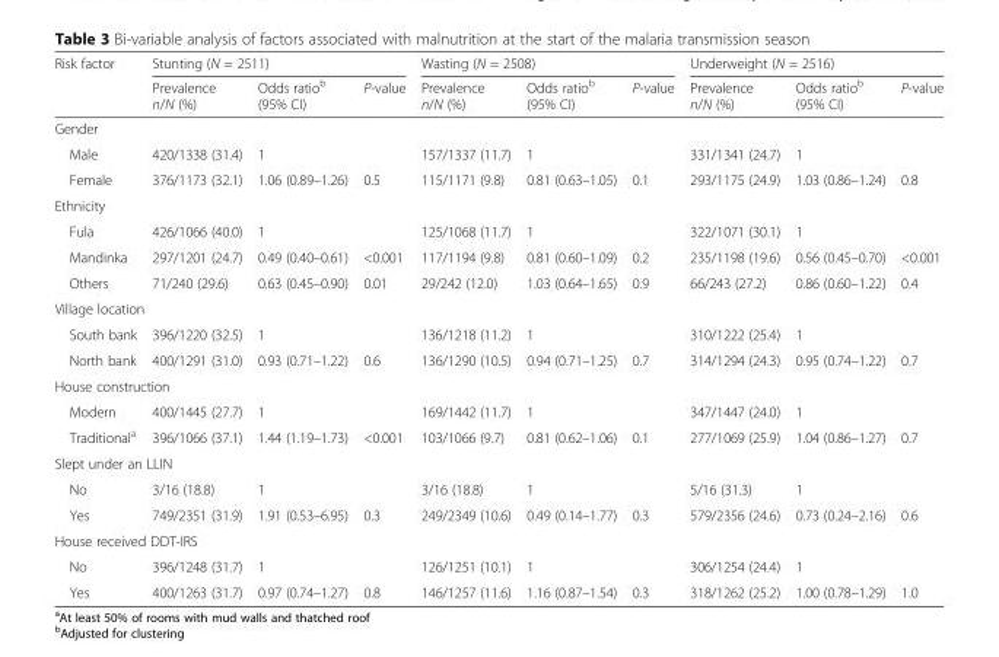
<table><thead><tr><td rowspan="2">Risk factor</td><td colspan="3">Stunting (N = 2511)</td><td colspan="3">Wasting (N = 2508)</td><td colspan="3">Underweight (N = 2516)</td></tr><tr><td>Prevalence n/N (%)</td><td>Odds ratio<sup>b</sup> (95% CI)</td><td>P-value</td><td>Prevalence n/N (%)</td><td>Odds ratio<sup>b</sup> (95% CI)</td><td>P-value</td><td>Prevalence n/N (%)</td><td>Odds ratio<sup>b</sup> (95% CI)</td><td>P-value</td></tr></thead><tbody><tr><td colspan="10">Gender</td></tr><tr><td>Male</td><td>420/1338 (31.4)</td><td>1</td><td></td><td>157/1337 (11.7)</td><td>1</td><td></td><td>331/1341 (24.7)</td><td>1</td><td></td></tr><tr><td>Female</td><td>376/1173 (32.1)</td><td>1.06 (0.89–1.26)</td><td>0.5</td><td>115/1171 (9.8)</td><td>0.81 (0.63–1.05)</td><td>0.1</td><td>293/1175 (24.9)</td><td>1.03 (0.86–1.24)</td><td>0.8</td></tr><tr><td colspan="10">Ethnicity</td></tr><tr><td>Fula</td><td>426/1066 (40.0)</td><td>1</td><td></td><td>125/1068 (11.7)</td><td>1</td><td></td><td>322/1071 (30.1)</td><td>1</td><td></td></tr><tr><td>Mandinka</td><td>297/1201 (24.7)</td><td>0.49 (0.40–0.61)</td><td>&lt;0.001</td><td>117/1194 (9.8)</td><td>0.81 (0.60–1.09)</td><td>0.2</td><td>235/1198 (19.6)</td><td>0.56 (0.45–0.70)</td><td>&lt;0.001</td></tr><tr><td>Others</td><td>71/240 (29.6)</td><td>0.63 (0.45–0.90)</td><td>0.01</td><td>29/242 (12.0)</td><td>1.03 (0.64–1.65)</td><td>0.9</td><td>66/243 (27.2)</td><td>0.86 (0.60–1.22)</td><td>0.4</td></tr><tr><td colspan="10">Village location</td></tr><tr><td>South bank</td><td>396/1220 (32.5)</td><td>1</td><td></td><td>136/1218 (11.2)</td><td>1</td><td></td><td>310/1222 (25.4)</td><td>1</td><td></td></tr><tr><td>North bank</td><td>400/1291 (31.0)</td><td>0.93 (0.71–1.22)</td><td>0.6</td><td>136/1290 (10.5)</td><td>0.94 (0.71–1.25)</td><td>0.7</td><td>314/1294 (24.3)</td><td>0.95 (0.74–1.22)</td><td>0.7</td></tr><tr><td colspan="10">House construction</td></tr><tr><td>Modern</td><td>400/1445 (27.7)</td><td>1</td><td></td><td>169/1442 (11.7)</td><td>1</td><td></td><td>347/1447 (24.0)</td><td>1</td><td></td></tr><tr><td>Traditional<sup>a</sup></td><td>396/1066 (37.1)</td><td>1.44 (1.19–1.73)</td><td>&lt;0.001</td><td>103/1066 (9.7)</td><td>0.81 (0.62–1.06)</td><td>0.1</td><td>277/1069 (25.9)</td><td>1.04 (0.86–1.27)</td><td>0.7</td></tr><tr><td colspan="10">Slept under an LLIN</td></tr><tr><td>No</td><td>3/16 (18.8)</td><td>1</td><td></td><td>3/16 (18.8)</td><td>1</td><td></td><td>5/16 (31.3)</td><td>1</td><td></td></tr><tr><td>Yes</td><td>749/2351 (31.9)</td><td>1.91 (0.53–6.95)</td><td>0.3</td><td>249/2349 (10.6)</td><td>0.49 (0.14–1.77)</td><td>0.3</td><td>579/2356 (24.6)</td><td>0.73 (0.24–2.16)</td><td>0.6</td></tr><tr><td colspan="10">House received DDT-IRS</td></tr><tr><td>No</td><td>396/1248 (31.7)</td><td>1</td><td></td><td>126/1251 (10.1)</td><td>1</td><td></td><td>306/1254 (24.4)</td><td>1</td><td></td></tr><tr><td>Yes</td><td>400/1263 (31.7)</td><td>0.97 (0.74–1.27)</td><td>0.8</td><td>146/1257 (11.6)</td><td>1.16 (0.87–1.54)</td><td>0.3</td><td>318/1262 (25.2)</td><td>1.00 (0.78–1.29)</td><td>1.0</td></tr></tbody></table>